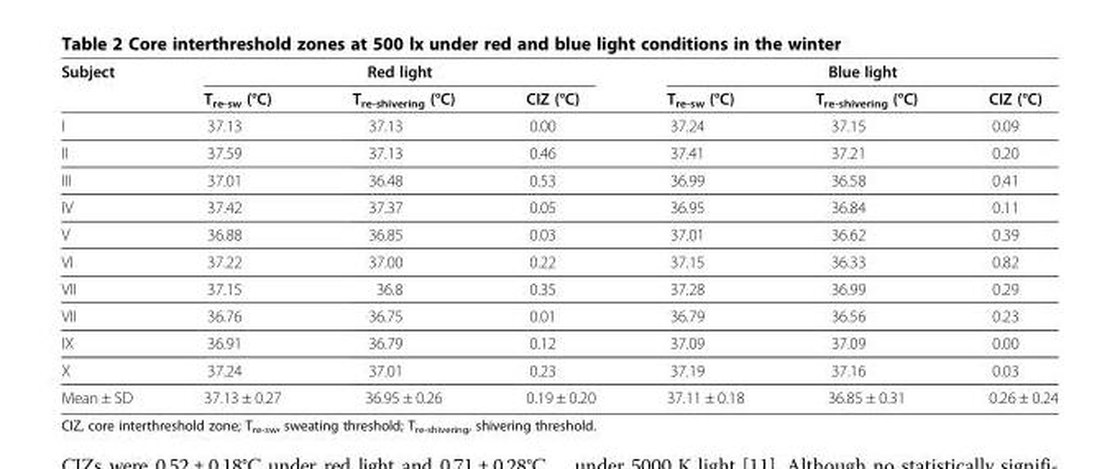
<table><thead><tr><td rowspan="2">Subject</td><td colspan="3">Red light</td><td colspan="3">Blue light</td></tr><tr><td>T<sub>re-sw</sub> (°C)</td><td>T<sub>re-shivering</sub> (°C)</td><td>CIZ (°C)</td><td>T<sub>re-sw</sub> (°C)</td><td>T<sub>re-shivering</sub> (°C)</td><td>CIZ (°C)</td></tr></thead><tbody><tr><td>I</td><td>37.13</td><td>37.13</td><td>0.00</td><td>37.24</td><td>37.15</td><td>0.09</td></tr><tr><td>II</td><td>37.59</td><td>37.13</td><td>0.46</td><td>37.41</td><td>37.21</td><td>0.20</td></tr><tr><td>III</td><td>37.01</td><td>36.48</td><td>0.53</td><td>36.99</td><td>36.58</td><td>0.41</td></tr><tr><td>IV</td><td>37.42</td><td>37.37</td><td>0.05</td><td>36.95</td><td>36.84</td><td>0.11</td></tr><tr><td>V</td><td>36.88</td><td>36.85</td><td>0.03</td><td>37.01</td><td>36.62</td><td>0.39</td></tr><tr><td>VI</td><td>37.22</td><td>37.00</td><td>0.22</td><td>37.15</td><td>36.33</td><td>0.82</td></tr><tr><td>VII</td><td>37.15</td><td>36.8</td><td>0.35</td><td>37.28</td><td>36.99</td><td>0.29</td></tr><tr><td>VII</td><td>36.76</td><td>36.75</td><td>0.01</td><td>36.79</td><td>36.56</td><td>0.23</td></tr><tr><td>IX</td><td>36.91</td><td>36.79</td><td>0.12</td><td>37.09</td><td>37.09</td><td>0.00</td></tr><tr><td>X</td><td>37.24</td><td>37.01</td><td>0.23</td><td>37.19</td><td>37.16</td><td>0.03</td></tr><tr><td>Mean ± SD</td><td>37.13 ± 0.27</td><td>36.95 ± 0.26</td><td>0.19 ± 0.20</td><td>37.11 ± 0.18</td><td>36.85 ± 0.31</td><td>0.26 ± 0.24</td></tr></tbody></table>